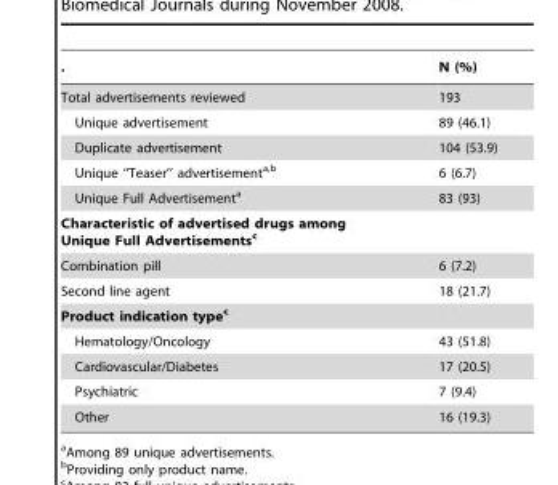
<table><thead><tr><td>.</td><td>N (%)</td></tr></thead><tbody><tr><td>Total advertisements reviewed</td><td>193</td></tr><tr><td>Unique advertisement</td><td>89 (46.1)</td></tr><tr><td>Duplicate advertisement</td><td>104 (53.9)</td></tr><tr><td>Unique ‘‘Teaser’’ advertisementa,b</td><td>6 (6.7)</td></tr><tr><td>Unique Full Advertisement<sup>a</sup></td><td>83 (93)</td></tr><tr><td colspan="2">Characteristic of advertised drugs among Unique Full Advertisementsc</td></tr><tr><td>Combination pill</td><td>6 (7.2)</td></tr><tr><td>Second line agent</td><td>18 (21.7)</td></tr><tr><td colspan="2">Product indication typec</td></tr><tr><td>Hematology/Oncology</td><td>43 (51.8)</td></tr><tr><td>Cardiovascular/Diabetes</td><td>17 (20.5)</td></tr><tr><td>Psychiatric</td><td>7 (9.4)</td></tr><tr><td>Other</td><td>16 (19.3)</td></tr></tbody></table>